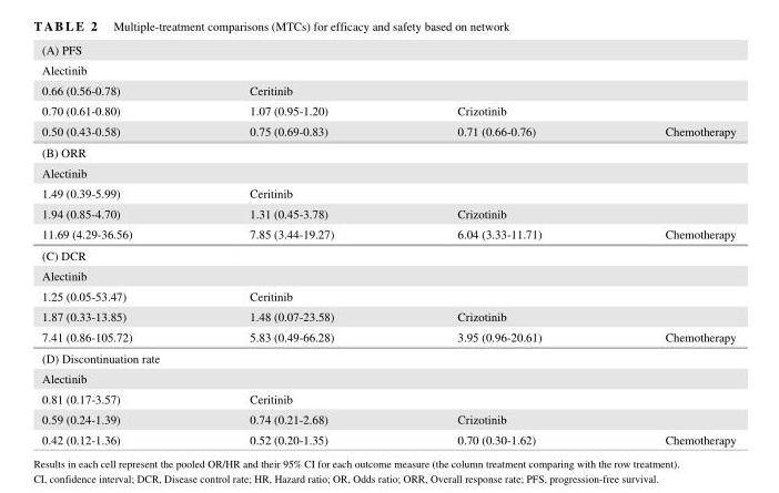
<table><tbody><tr><td colspan="4">(A) PFS</td></tr><tr><td colspan="4">Alectinib</td></tr><tr><td>0.66 (0.56- 0.78)</td><td>Ceritinib</td><td></td><td></td></tr><tr><td>0.70 (0.61- 0.80)</td><td>1.07 (0.95- 1.20)</td><td>Crizotinib</td><td></td></tr><tr><td>0.50 (0.43- 0.58)</td><td>0.75 (0.69- 0.83)</td><td>0.71 (0.66- 0.76)</td><td>Chemotherapy</td></tr><tr><td colspan="4">(B) ORR</td></tr><tr><td colspan="4">Alectinib</td></tr><tr><td>1.49 (0.39- 5.99)</td><td>Ceritinib</td><td></td><td></td></tr><tr><td>1.94 (0.85- 4.70)</td><td>1.31 (0.45- 3.78)</td><td>Crizotinib</td><td></td></tr><tr><td>11.69 (4.29- 36.56)</td><td>7.85 (3.44- 19.27)</td><td>6.04 (3.33- 11.71)</td><td>Chemotherapy</td></tr><tr><td colspan="4">(C) DCR</td></tr><tr><td colspan="4">Alectinib</td></tr><tr><td>1.25 (0.05- 53.47)</td><td>Ceritinib</td><td></td><td></td></tr><tr><td>1.87 (0.33- 13.85)</td><td>1.48 (0.07- 23.58)</td><td>Crizotinib</td><td></td></tr><tr><td>7.41 (0.86- 105.72)</td><td>5.83 (0.49- 66.28)</td><td>3.95 (0.96- 20.61)</td><td>Chemotherapy</td></tr><tr><td colspan="4">(D) Discontinuation rate</td></tr><tr><td colspan="4">Alectinib</td></tr><tr><td>0.81 (0.17- 3.57)</td><td>Ceritinib</td><td></td><td></td></tr><tr><td>0.59 (0.24- 1.39)</td><td>0.74 (0.21- 2.68)</td><td>Crizotinib</td><td></td></tr><tr><td>0.42 (0.12- 1.36)</td><td>0.52 (0.20- 1.35)</td><td>0.70 (0.30- 1.62)</td><td>Chemotherapy</td></tr></tbody></table>